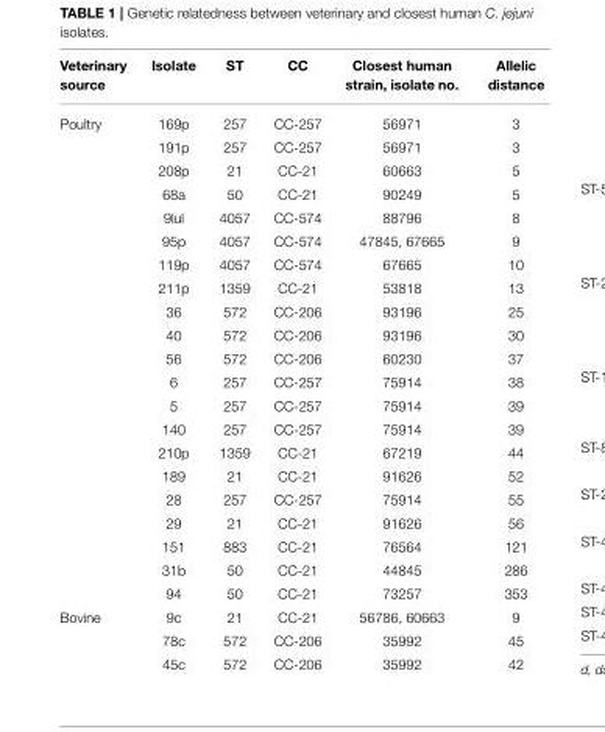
<table><thead><tr><td>Veterinary source</td><td>Isolate</td><td>ST</td><td>CC</td><td>Closest human strain, isolate no.</td><td>Allelic distance</td></tr></thead><tbody><tr><td rowspan="21">Poultry</td><td>169p</td><td>257</td><td>CC-257</td><td>56971</td><td>3</td></tr><tr><td>191p</td><td>257</td><td>CC-257</td><td>56971</td><td>3</td></tr><tr><td>208p</td><td>21</td><td>CC-21</td><td>60663</td><td>5</td></tr><tr><td>68a</td><td>50</td><td>CC-21</td><td>90249</td><td>5</td></tr><tr><td>9lul</td><td>4057</td><td>CC-574</td><td>88796</td><td>8</td></tr><tr><td>95p</td><td>4057</td><td>CC-574</td><td>47845, 67665</td><td>9</td></tr><tr><td>119p</td><td>4057</td><td>CC-574</td><td>67665</td><td>10</td></tr><tr><td>211p</td><td>1359</td><td>CC-21</td><td>53818</td><td>13</td></tr><tr><td>36</td><td>572</td><td>CC-206</td><td>93196</td><td>25</td></tr><tr><td>40</td><td>572</td><td>CC-206</td><td>93196</td><td>30</td></tr><tr><td>56</td><td>572</td><td>CC-206</td><td>60230</td><td>37</td></tr><tr><td>6</td><td>257</td><td>CC-257</td><td>75914</td><td>38</td></tr><tr><td>5</td><td>257</td><td>CC-257</td><td>75914</td><td>39</td></tr><tr><td>140</td><td>257</td><td>CC-257</td><td>75914</td><td>39</td></tr><tr><td>210p</td><td>1359</td><td>CC-21</td><td>67219</td><td>44</td></tr><tr><td>189</td><td>21</td><td>CC-21</td><td>91626</td><td>52</td></tr><tr><td>28</td><td>257</td><td>CC-257</td><td>75914</td><td>55</td></tr><tr><td>29</td><td>21</td><td>CC-21</td><td>91626</td><td>56</td></tr><tr><td>151</td><td>883</td><td>CC-21</td><td>76564</td><td>121</td></tr><tr><td>31b</td><td>50</td><td>CC-21</td><td>44845</td><td>286</td></tr><tr><td>94</td><td>50</td><td>CC-21</td><td>73257</td><td>353</td></tr><tr><td rowspan="3">Bovine</td><td>9c</td><td>21</td><td>CC-21</td><td>56786, 60663</td><td>9</td></tr><tr><td>78c</td><td>572</td><td>CC-206</td><td>35992</td><td>45</td></tr><tr><td>45c</td><td>572</td><td>CC-206</td><td>35992</td><td>42</td></tr></tbody></table>